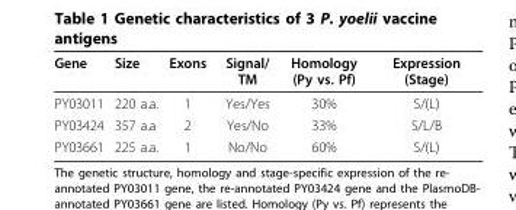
<table><thead><tr><td>Gene</td><td>Size</td><td>Exons</td><td>Signal/ TM</td><td>Homology (Py vs. Pf)</td><td>Expression (Stage)</td></tr></thead><tbody><tr><td>PY03011</td><td>220 a.a.</td><td>1</td><td>Yes/Yes</td><td>30%</td><td>S/(L)</td></tr><tr><td>PY03424</td><td>357 a.a</td><td>2</td><td>Yes/No</td><td>33%</td><td>S/L/B</td></tr><tr><td>PY03661</td><td>225 a.a.</td><td>1</td><td>No/No</td><td>60%</td><td>S/(L)</td></tr></tbody></table>